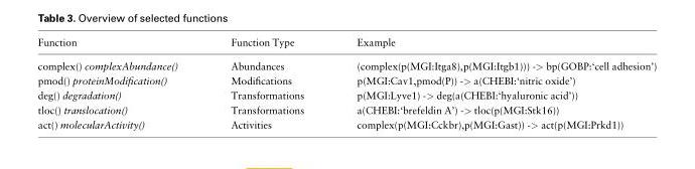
<table><thead><tr><td>Function</td><td>Function Type</td><td>Example</td></tr></thead><tbody><tr><td>complex() complexAbundance()</td><td>Abundances</td><td>(complex(p(MGI:Itga8),p(MGI:Itgb1))) -&gt; bp(GOBP:‘cell adhesion’)</td></tr><tr><td>pmod() proteinModification()</td><td>Modifications</td><td>p(MGI:Cav1,pmod(P)) -&gt; a(CHEBI:‘nitric oxide’)</td></tr><tr><td>deg() degradation()</td><td>Transformations</td><td>p(MGI:Lyve1) -&gt; deg(a(CHEBI:‘hyaluronic acid’))</td></tr><tr><td>tloc() translocation()</td><td>Transformations</td><td>a(CHEBI:‘brefeldin A’) -&gt; tloc(p(MGI:Stk16))</td></tr><tr><td>act() molecularActivity()</td><td>Activities</td><td>complex(p(MGI:Cckbr),p(MGI:Gast)) -&gt; act(p(MGI:Prkd1))</td></tr></tbody></table>